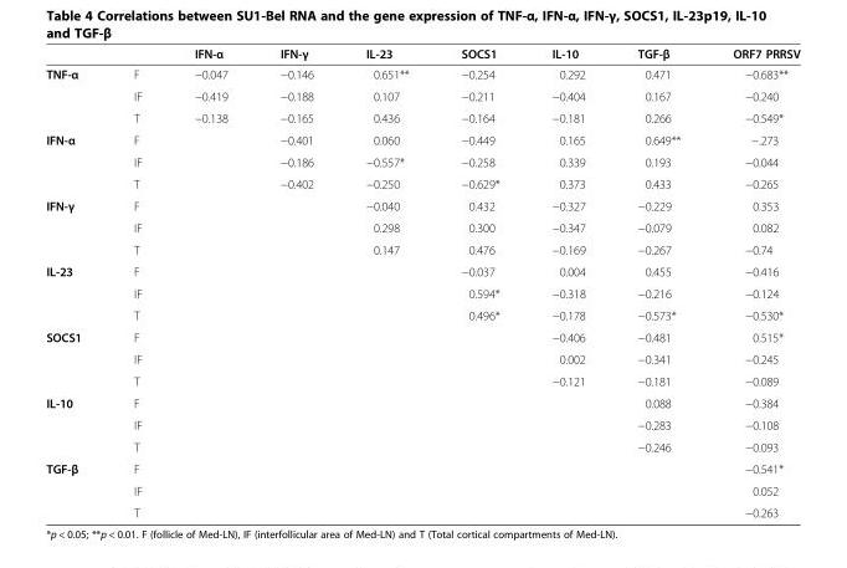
<table><thead><tr><td></td><td></td><td>IFN-α</td><td>IFN-γ</td><td>IL-23</td><td>SOCS1</td><td>IL-10</td><td>TGF-β</td><td>ORF7 PRRSV</td></tr></thead><tbody><tr><td rowspan="3">TNF-α</td><td>F</td><td>−0.047</td><td>−0.146</td><td>0.651**</td><td>−0.254</td><td>0.292</td><td>0.471</td><td>−0.683**</td></tr><tr><td>IF</td><td>−0.419</td><td>−0.188</td><td>0.107</td><td>−0.211</td><td>−0.404</td><td>0.167</td><td>−0.240</td></tr><tr><td>T</td><td>−0.138</td><td>−0.165</td><td>0.436</td><td>−0.164</td><td>−0.181</td><td>0.266</td><td>−0.549*</td></tr><tr><td rowspan="3">IFN-α</td><td>F</td><td></td><td>−0.401</td><td>0.060</td><td>−0.449</td><td>0.165</td><td>0.649**</td><td>−.273</td></tr><tr><td>IF</td><td></td><td>−0.186</td><td>−0.557*</td><td>−0.258</td><td>0.339</td><td>0.193</td><td>−0.044</td></tr><tr><td>T</td><td></td><td>−0.402</td><td>−0.250</td><td>−0.629*</td><td>0.373</td><td>0.433</td><td>−0.265</td></tr><tr><td rowspan="3">IFN-γ</td><td>F</td><td></td><td></td><td>−0.040</td><td>0.432</td><td>−0.327</td><td>−0.229</td><td>0.353</td></tr><tr><td>IF</td><td></td><td></td><td>0.298</td><td>0.300</td><td>−0.347</td><td>−0.079</td><td>0.082</td></tr><tr><td>T</td><td></td><td></td><td>0.147</td><td>0.476</td><td>−0.169</td><td>−0.267</td><td>−0.74</td></tr><tr><td rowspan="3">IL-23</td><td>F</td><td></td><td></td><td></td><td>−0.037</td><td>0.004</td><td>0.455</td><td>−0.416</td></tr><tr><td>IF</td><td></td><td></td><td></td><td>0.594*</td><td>−0.318</td><td>−0.216</td><td>−0.124</td></tr><tr><td>T</td><td></td><td></td><td></td><td>0.496*</td><td>−0.178</td><td>−0.573*</td><td>−0.530*</td></tr><tr><td rowspan="3">SOCS1</td><td>F</td><td></td><td></td><td></td><td></td><td>−0.406</td><td>−0.481</td><td>0.515*</td></tr><tr><td>IF</td><td></td><td></td><td></td><td></td><td>0.002</td><td>−0.341</td><td>−0.245</td></tr><tr><td>T</td><td></td><td></td><td></td><td></td><td>−0.121</td><td>−0.181</td><td>−0.089</td></tr><tr><td rowspan="3">IL-10</td><td>F</td><td></td><td></td><td></td><td></td><td></td><td>0.088</td><td>−0.384</td></tr><tr><td>IF</td><td></td><td></td><td></td><td></td><td></td><td>−0.283</td><td>−0.108</td></tr><tr><td>T</td><td></td><td></td><td></td><td></td><td></td><td>−0.246</td><td>−0.093</td></tr><tr><td rowspan="3">TGF-β</td><td>F</td><td></td><td></td><td></td><td></td><td></td><td></td><td>−0.541*</td></tr><tr><td>IF</td><td></td><td></td><td></td><td></td><td></td><td></td><td>0.052</td></tr><tr><td>T</td><td></td><td></td><td></td><td></td><td></td><td></td><td>−0.263</td></tr></tbody></table>